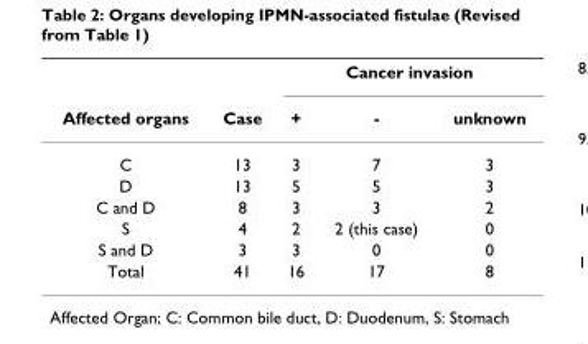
<table><thead><tr><td rowspan="2">Affected organs</td><td rowspan="2">Case</td><td colspan="3">Cancer invasion</td></tr><tr><td>+</td><td>-</td><td>unknown</td></tr></thead><tbody><tr><td>C</td><td>13</td><td>3</td><td>7</td><td>3</td></tr><tr><td>D</td><td>13</td><td>5</td><td>5</td><td>3</td></tr><tr><td>C and D</td><td>8</td><td>3</td><td>3</td><td>2</td></tr><tr><td>S</td><td>4</td><td>2</td><td>2 (this case)</td><td>0</td></tr><tr><td>S and D</td><td>3</td><td>3</td><td>0</td><td>0</td></tr><tr><td>Total</td><td>41</td><td>16</td><td>17</td><td>8</td></tr></tbody></table>